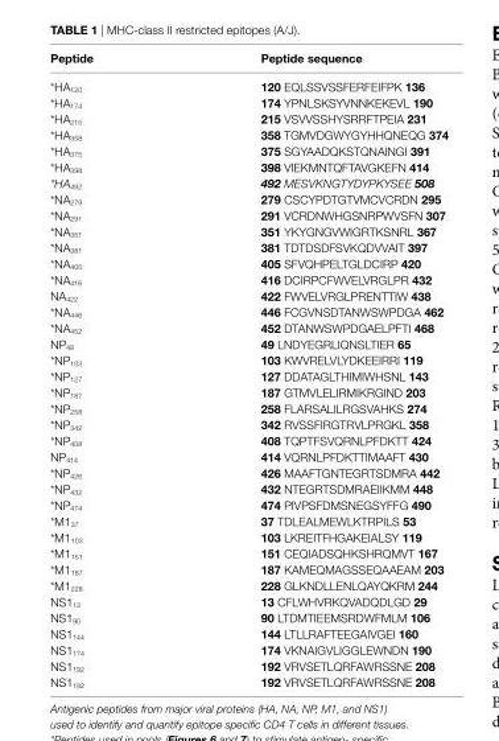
<table><thead><tr><td>Peptide</td><td>Peptide sequence</td></tr></thead><tbody><tr><td>*HA<sub>120</sub></td><td>120 EQLSSVSSFERFEIFPK 136</td></tr><tr><td>*HA<sub>174</sub></td><td>174 YPNLSKSYVNNKEKEVL 190</td></tr><tr><td>*HA<sub>215</sub></td><td>215 VSVVSSHYSRRFTPEIA 231</td></tr><tr><td>*HA<sub>358</sub></td><td>358 TGMVDGWYGYHHQNEQG 374</td></tr><tr><td>*HA<sub>375</sub></td><td>375 SGYAADQKSTQNAINGI 391</td></tr><tr><td>*HA<sub>398</sub></td><td>398 VIEKMNTQFTAVGKEFN 414</td></tr><tr><td>*HA<sub>492</sub></td><td>492 MESVKNGTYDYPKYSEE 508</td></tr><tr><td>*NA<sub>279</sub></td><td>279 CSCYPDTGTVMCVCRDN 295</td></tr><tr><td>*NA<sub>291</sub></td><td>291 VCRDNWHGSNRPWVSFN 307</td></tr><tr><td>*NA<sub>351</sub></td><td>351 YKYGNGVWIGRTKSNRL 367</td></tr><tr><td>*NA<sub>381</sub></td><td>381 TDTDSDFSVKQDVVAIT 397</td></tr><tr><td>*NA<sub>405</sub></td><td>405 SFVQHPELTGLDCIRP 420</td></tr><tr><td>*NA<sub>416</sub></td><td>416 DCIRPCFWVELVRGLPR 432</td></tr><tr><td>NA<sub>422</sub></td><td>422 FWVELVRGLPRENTTIW 438</td></tr><tr><td>*NA<sub>446</sub></td><td>446 FCGVNSDTANWSWPDGA 462</td></tr><tr><td>*NA<sub>452</sub></td><td>452 DTANWSWPDGAELPFTI 468</td></tr><tr><td>NP<sub>49</sub></td><td>49 LNDYEGRLIQNSLTIER 65</td></tr><tr><td>*NP<sub>103</sub></td><td>103 KWVRELVLYDKEEIRRI 119</td></tr><tr><td>*NP<sub>127</sub></td><td>127 DDATAGLTHIMIWHSNL 143</td></tr><tr><td>*NP<sub>187</sub></td><td>187 GTMVLELIRMIKRGIND 203</td></tr><tr><td>*NP<sub>258</sub></td><td>258 FLARSALILRGSVAHKS 274</td></tr><tr><td>*NP<sub>342</sub></td><td>342 RVSSFIRGTRVLPRGKL 358</td></tr><tr><td>*NP<sub>408</sub></td><td>408 TQPTFSVQRNLPFDKTT 424</td></tr><tr><td>NP<sub>414</sub></td><td>414 VQRNLPFDKTTIMAAFT 430</td></tr><tr><td>*NP<sub>426</sub></td><td>426 MAAFTGNTEGRTSDMRA 442</td></tr><tr><td>*NP<sub>432</sub></td><td>432 NTEGRTSDMRAEIIKMM 448</td></tr><tr><td>*NP<sub>474</sub></td><td>474 PIVPSFDMSNEGSYFFG 490</td></tr><tr><td>*M1<sub>37</sub></td><td>37 TDLEALMEWLKTRPILS 53</td></tr><tr><td>*M1<sub>103</sub></td><td>103 LKREITFHGAKEIALSY 119</td></tr><tr><td>*M1<sub>151</sub></td><td>151 CEQIADSQHKSHRQMVT 167</td></tr><tr><td>*M1<sub>187</sub></td><td>187 KAMEQMAGSSEQAAEAM 203</td></tr><tr><td>*M1<sub>228</sub></td><td>228 GLKNDLLENLQAYQKRM 244</td></tr><tr><td>NS1<sub>13</sub></td><td>13 CFLWHVRKQVADQDLGD 29</td></tr><tr><td>NS1<sub>90</sub></td><td>90 LTDMTIEEMSRDWFMLM 106</td></tr><tr><td>NS1<sub>144</sub></td><td>144 LTLLRAFTEEGAIVGEI 160</td></tr><tr><td>NS1<sub>174</sub></td><td>174 VKNAIGVLIGGLEWNDN 190</td></tr><tr><td>NS1<sub>192</sub></td><td>192 VRVSETLQRFAWRSSNE 208</td></tr><tr><td>NS1<sub>192</sub></td><td>192 VRVSETLQRFAWRSSNE 208</td></tr></tbody></table>